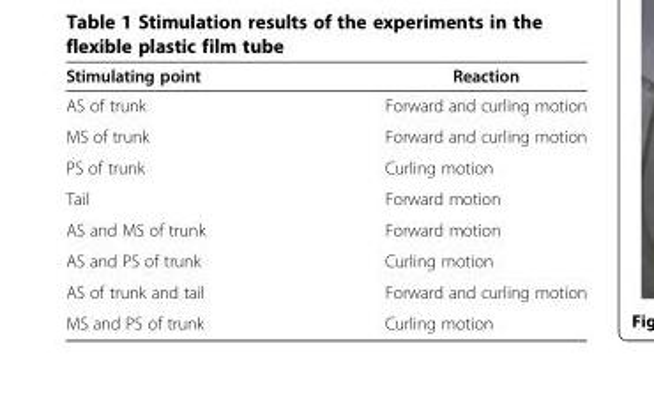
<table><thead><tr><td>Stimulating point</td><td>Reaction</td></tr></thead><tbody><tr><td>AS of trunk</td><td>Forward and curling motion</td></tr><tr><td>MS of trunk</td><td>Forward and curling motion</td></tr><tr><td>PS of trunk</td><td>Curling motion</td></tr><tr><td>Tail</td><td>Forward motion</td></tr><tr><td>AS and MS of trunk</td><td>Forward motion</td></tr><tr><td>AS and PS of trunk</td><td>Curling motion</td></tr><tr><td>AS of trunk and tail</td><td>Forward and curling motion</td></tr><tr><td>MS and PS of trunk</td><td>Curling motion</td></tr></tbody></table>